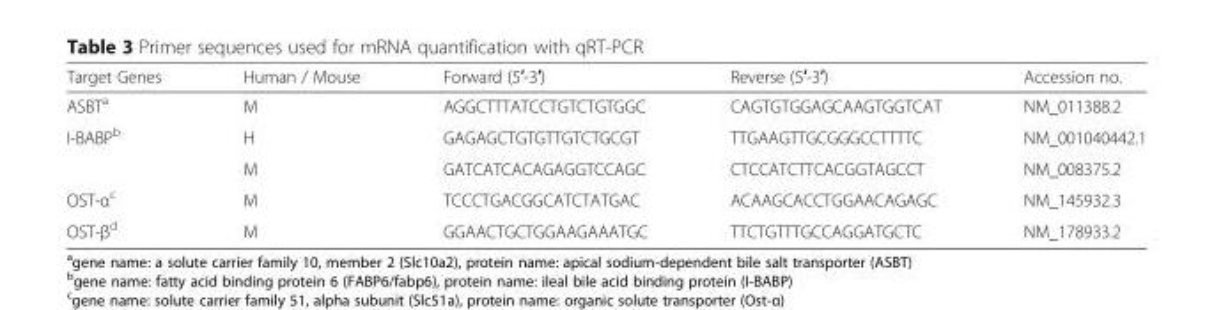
<table><thead><tr><td>Target Genes</td><td>Human / Mouse</td><td>Forward (5′-3′)</td><td>Reverse (5′-3′)</td><td>Accession no.</td></tr></thead><tbody><tr><td>ASBT<sup>a</sup></td><td>M</td><td>AGGCTTTATCCTGTCTGTGGC</td><td>CAGTGTGGAGCAAGTGGTCAT</td><td>NM_011388.2</td></tr><tr><td rowspan="2">I-BABP<sup>b</sup></td><td>H</td><td>GAGAGCTGTGTTGTCTGCGT</td><td>TTGAAGTTGCGGGCCTTTTC</td><td>NM_001040442.1</td></tr><tr><td>M</td><td>GATCATCACAGAGGTCCAGC</td><td>CTCCATCTTCACGGTAGCCT</td><td>NM_008375.2</td></tr><tr><td>OST-α<sup>c</sup></td><td>M</td><td>TCCCTGACGGCATCTATGAC</td><td>ACAAGCACCTGGAACAGAGC</td><td>NM_145932.3</td></tr><tr><td>OST-β<sup>d</sup></td><td>M</td><td>GGAACTGCTGGAAGAAATGC</td><td>TTCTGTTTGCCAGGATGCTC</td><td>NM_178933.2</td></tr></tbody></table>